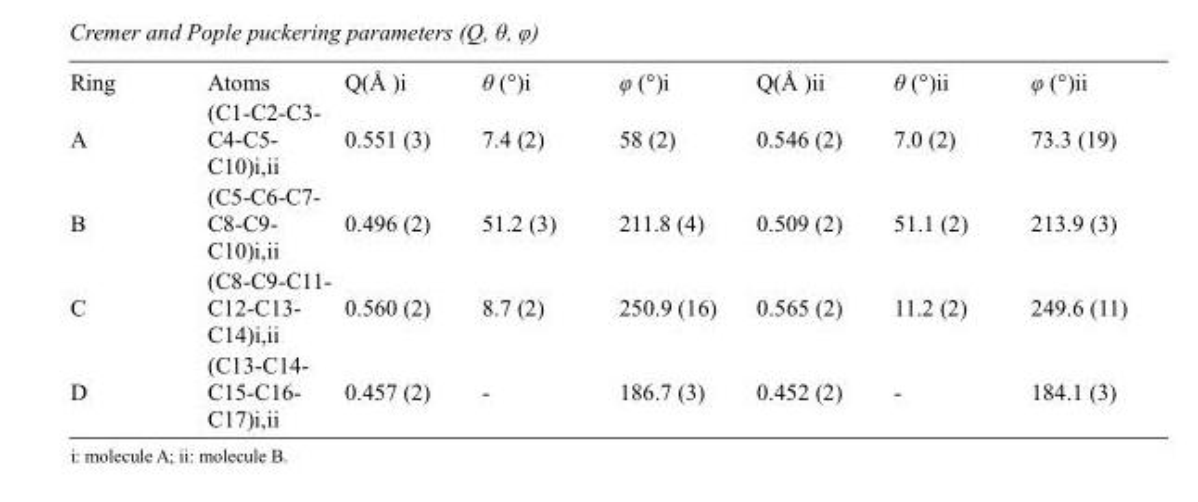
<table><tbody><tr><td>Ring</td><td>Atoms</td><td>Q(Å )i</td><td>θ (°)i</td><td>φ (°)i</td><td>Q(Å )ii</td><td>θ (°)ii</td><td>φ (°)ii</td></tr><tr><td>A</td><td>(C1-C2-C3- C4-C5- C10)i,ii</td><td>0.551 (3)</td><td>7.4 (2)</td><td>58 (2)</td><td>0.546 (2)</td><td>7.0 (2)</td><td>73.3 (19)</td></tr><tr><td>B</td><td>(C5-C6-C7- C8-C9- C10)i,ii</td><td>0.496 (2)</td><td>51.2 (3)</td><td>211.8 (4)</td><td>0.509 (2)</td><td>51.1 (2)</td><td>213.9 (3)</td></tr><tr><td>C</td><td>(C8-C9-C11- C12-C13- C14)i,ii</td><td>0.560 (2)</td><td>8.7 (2)</td><td>250.9 (16)</td><td>0.565 (2)</td><td>11.2 (2)</td><td>249.6 (11)</td></tr><tr><td>D</td><td>(C13-C14- C15-C16- C17)i,ii</td><td>0.457 (2)</td><td>-</td><td>186.7 (3)</td><td>0.452 (2)</td><td>-</td><td>184.1 (3)</td></tr></tbody></table>